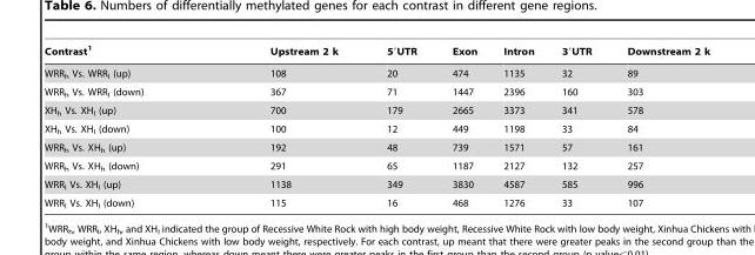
<table><thead><tr><td>Contrast<sup>1</sup></td><td>Upstream 2 k</td><td>5′UTR</td><td>Exon</td><td>Intron</td><td>3′UTR</td><td>Downstream 2 k</td></tr></thead><tbody><tr><td>WRR<sub>h</sub> Vs. WRR<sub>l</sub> (up)</td><td>108</td><td>20</td><td>474</td><td>1135</td><td>32</td><td>89</td></tr><tr><td>WRR<sub>h</sub> Vs. WRR<sub>l</sub> (down)</td><td>367</td><td>71</td><td>1447</td><td>2396</td><td>160</td><td>303</td></tr><tr><td>XH<sub>h</sub> Vs. XH<sub>l</sub> (up)</td><td>700</td><td>179</td><td>2665</td><td>3373</td><td>341</td><td>578</td></tr><tr><td>XH<sub>h</sub> Vs. XH<sub>l</sub> (down)</td><td>100</td><td>12</td><td>449</td><td>1198</td><td>33</td><td>84</td></tr><tr><td>WRR<sub>h</sub> Vs. XH<sub>h</sub> (up)</td><td>192</td><td>48</td><td>739</td><td>1571</td><td>57</td><td>161</td></tr><tr><td>WRR<sub>h</sub> Vs. XH<sub>h</sub> (down)</td><td>291</td><td>65</td><td>1187</td><td>2127</td><td>132</td><td>257</td></tr><tr><td>WRR<sub>l</sub> Vs. XH<sub>l</sub> (up)</td><td>1138</td><td>349</td><td>3830</td><td>4587</td><td>585</td><td>996</td></tr><tr><td>WRR<sub>l</sub> Vs. XH<sub>l</sub> (down)</td><td>115</td><td>16</td><td>468</td><td>1276</td><td>33</td><td>107</td></tr></tbody></table>